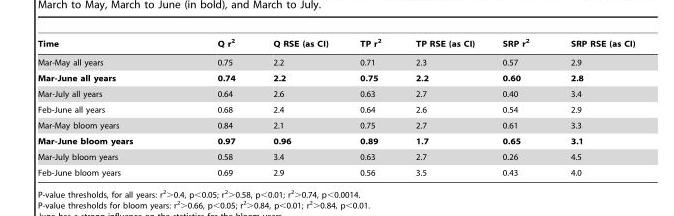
<table><thead><tr><td>Time</td><td>Q r<sup>2</sup></td><td>Q RSE (as CI)</td><td>TP r<sup>2</sup></td><td>TP RSE (as CI)</td><td>SRP r<sup>2</sup></td><td>SRP RSE (as CI)</td></tr></thead><tbody><tr><td>Mar-May all years</td><td>0.75</td><td>2.2</td><td>0.71</td><td>2.3</td><td>0.57</td><td>2.9</td></tr><tr><td>Mar-June all years</td><td>0.74</td><td>2.2</td><td>0.75</td><td>2.2</td><td>0.60</td><td>2.8</td></tr><tr><td>Mar-July all years</td><td>0.64</td><td>2.6</td><td>0.63</td><td>2.7</td><td>0.40</td><td>3.4</td></tr><tr><td>Feb-June all years</td><td>0.68</td><td>2.4</td><td>0.64</td><td>2.6</td><td>0.54</td><td>2.9</td></tr><tr><td>Mar-May bloom years</td><td>0.84</td><td>2.1</td><td>0.75</td><td>2.7</td><td>0.61</td><td>3.3</td></tr><tr><td>Mar-June bloom years</td><td>0.97</td><td>0.96</td><td>0.89</td><td>1.7</td><td>0.65</td><td>3.1</td></tr><tr><td>Mar-July bloom years</td><td>0.58</td><td>3.4</td><td>0.63</td><td>2.7</td><td>0.26</td><td>4.5</td></tr><tr><td>Feb-June bloom years</td><td>0.69</td><td>2.9</td><td>0.56</td><td>3.5</td><td>0.43</td><td>4.0</td></tr></tbody></table>